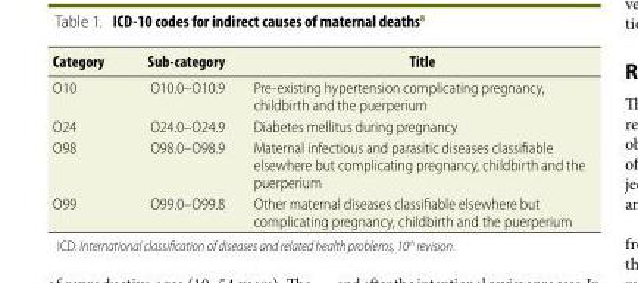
<table><thead><tr><td>Category</td><td>Sub-category</td><td>Title</td></tr></thead><tbody><tr><td>O10</td><td>O10.0–O10.9</td><td>Pre-existing hypertension complicating pregnancy, childbirth and the puerperium</td></tr><tr><td>O24</td><td>O24.0–O24.9</td><td>Diabetes mellitus during pregnancy</td></tr><tr><td>O98</td><td>O98.0–O98.9</td><td>Maternal infectious and parasitic diseases classifiable elsewhere but complicating pregnancy, childbirth and the puerperium</td></tr><tr><td>O99</td><td>O99.0–O99.8</td><td>Other maternal diseases classifiable elsewhere but complicating pregnancy, childbirth and the puerperium</td></tr></tbody></table>